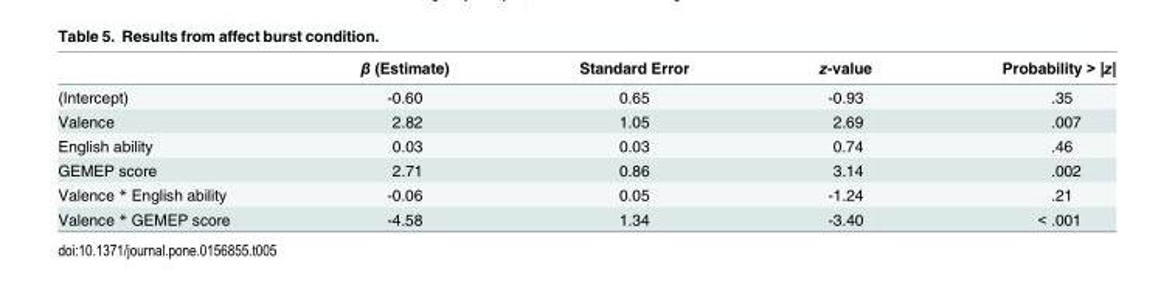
<table><thead><tr><td></td><td>β (Estimate)</td><td>Standard Error</td><td>z-value</td><td>Probability &gt; |z|</td></tr></thead><tbody><tr><td>(Intercept)</td><td>-0.60</td><td>0.65</td><td>-0.93</td><td>.35</td></tr><tr><td>Valence</td><td>2.82</td><td>1.05</td><td>2.69</td><td>.007</td></tr><tr><td>English ability</td><td>0.03</td><td>0.03</td><td>0.74</td><td>.46</td></tr><tr><td>GEMEP score</td><td>2.71</td><td>0.86</td><td>3.14</td><td>.002</td></tr><tr><td>Valence * English ability</td><td>-0.06</td><td>0.05</td><td>-1.24</td><td>.21</td></tr><tr><td>Valence * GEMEP score</td><td>-4.58</td><td>1.34</td><td>-3.40</td><td>&lt; .001</td></tr></tbody></table>